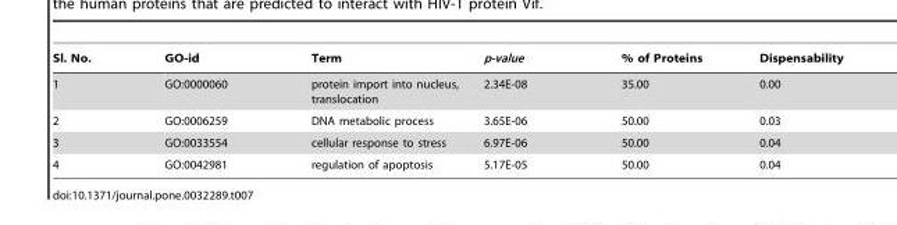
<table><thead><tr><td>Sl. No.</td><td>GO-id</td><td>Term</td><td>p-value</td><td>% of Proteins</td><td>Dispensability</td></tr></thead><tbody><tr><td>1</td><td>GO:0000060</td><td>protein import into nucleus, translocation</td><td>2.34E-08</td><td>35.00</td><td>0.00</td></tr><tr><td>2</td><td>GO:0006259</td><td>DNA metabolic process</td><td>3.65E-06</td><td>50.00</td><td>0.03</td></tr><tr><td>3</td><td>GO:0033554</td><td>cellular response to stress</td><td>6.97E-06</td><td>50.00</td><td>0.04</td></tr><tr><td>4</td><td>GO:0042981</td><td>regulation of apoptosis</td><td>5.17E-05</td><td>50.00</td><td>0.04</td></tr></tbody></table>